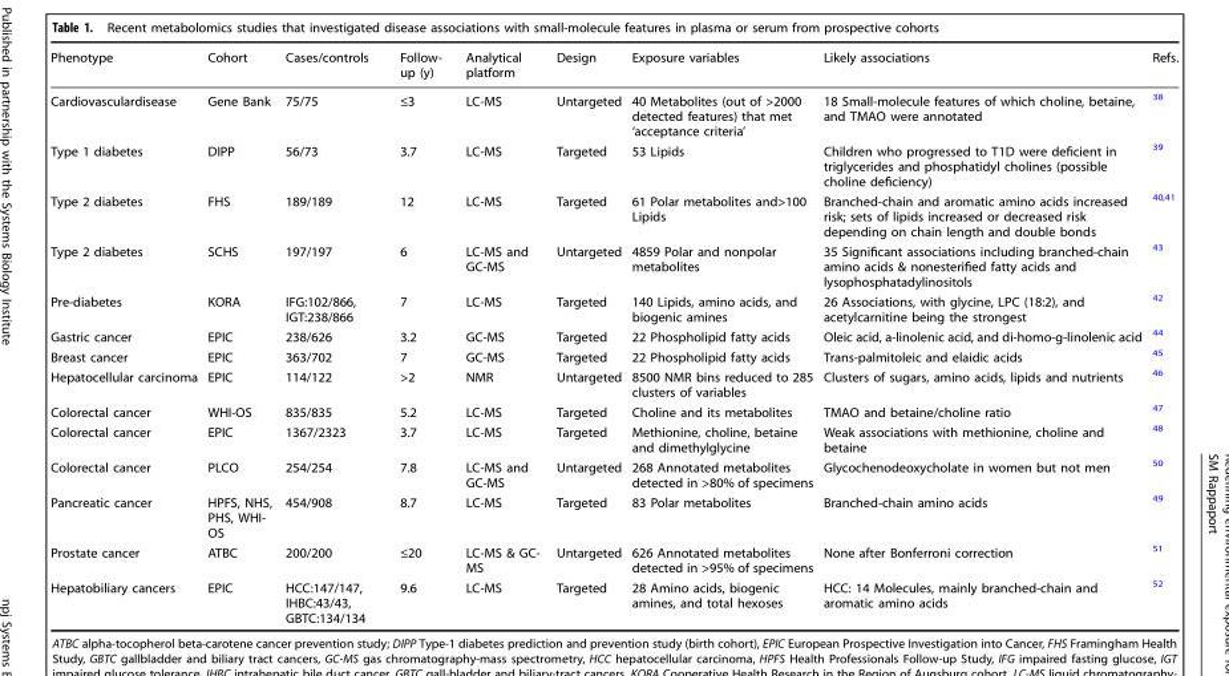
<table><thead><tr><td>Phenotype</td><td>Cohort</td><td>Cases/controls</td><td>Follow- up (y)</td><td>Analytical platform</td><td>Design</td><td>Exposure variables</td><td>Likely associations</td><td>Refs.</td></tr></thead><tbody><tr><td>Cardiovasculardisease</td><td>Gene Bank</td><td>75/75</td><td>≤3</td><td>LC-MS</td><td>Untargeted</td><td>40 Metabolites (out of &gt;2000 detected features) that met ‘acceptance criteria’</td><td>18 Small-molecule features of which choline, betaine, and TMAO were annotated</td><td><sup>38</sup></td></tr><tr><td>Type 1 diabetes</td><td>DIPP</td><td>56/73</td><td>3.7</td><td>LC-MS</td><td>Targeted</td><td>53 Lipids</td><td>Children who progressed to T1D were deficient in triglycerides and phosphatidyl cholines (possible choline deficiency)</td><td><sup>39</sup></td></tr><tr><td>Type 2 diabetes</td><td>FHS</td><td>189/189</td><td>12</td><td>LC-MS</td><td>Targeted</td><td>61 Polar metabolites and&gt;100 Lipids</td><td>Branched-chain and aromatic amino acids increased risk; sets of lipids increased or decreased risk depending on chain length and double bonds</td><td><sup>40,41</sup></td></tr><tr><td>Type 2 diabetes</td><td>SCHS</td><td>197/197</td><td>6</td><td>LC-MS and GC-MS</td><td>Untargeted</td><td>4859 Polar and nonpolar metabolites</td><td>35 Significant associations including branched-chain amino acids &amp; nonesterified fatty acids and lysophosphatadylinositols</td><td><sup>43</sup></td></tr><tr><td>Pre-diabetes</td><td>KORA</td><td>IFG:102/866, IGT:238/866</td><td>7</td><td>LC-MS</td><td>Targeted</td><td>140 Lipids, amino acids, and biogenic amines</td><td>26 Associations, with glycine, LPC (18:2), and acetylcarnitine being the strongest</td><td><sup>42</sup></td></tr><tr><td>Gastric cancer</td><td>EPIC</td><td>238/626</td><td>3.2</td><td>GC-MS</td><td>Targeted</td><td>22 Phospholipid fatty acids</td><td>Oleic acid, a-linolenic acid, and di-homo-g-linolenic acid</td><td><sup>44</sup></td></tr><tr><td>Breast cancer</td><td>EPIC</td><td>363/702</td><td>7</td><td>GC-MS</td><td>Targeted</td><td>22 Phospholipid fatty acids</td><td>Trans-palmitoleic and elaidic acids</td><td><sup>45</sup></td></tr><tr><td>Hepatocellular carcinoma</td><td>EPIC</td><td>114/122</td><td>&gt;2</td><td>NMR</td><td>Untargeted</td><td>8500 NMR bins reduced to 285 clusters of variables</td><td>Clusters of sugars, amino acids, lipids and nutrients</td><td><sup>46</sup></td></tr><tr><td>Colorectal cancer</td><td>WHI-OS</td><td>835/835</td><td>5.2</td><td>LC-MS</td><td>Targeted</td><td>Choline and its metabolites</td><td>TMAO and betaine/choline ratio</td><td><sup>47</sup></td></tr><tr><td>Colorectal cancer</td><td>EPIC</td><td>1367/2323</td><td>3.7</td><td>LC-MS</td><td>Targeted</td><td>Methionine, choline, betaine and dimethylglycine</td><td>Weak associations with methionine, choline and betaine</td><td><sup>48</sup></td></tr><tr><td>Colorectal cancer</td><td>PLCO</td><td>254/254</td><td>7.8</td><td>LC-MS and GC-MS</td><td>Untargeted</td><td>268 Annotated metabolites detected in &gt;80% of specimens</td><td>Glycochenodeoxycholate in women but not men</td><td><sup>50</sup></td></tr><tr><td>Pancreatic cancer</td><td>HPFS, NHS, PHS, WHI- OS</td><td>454/908</td><td>8.7</td><td>LC-MS</td><td>Targeted</td><td>83 Polar metabolites</td><td>Branched-chain amino acids</td><td><sup>49</sup></td></tr><tr><td>Prostate cancer</td><td>ATBC</td><td>200/200</td><td>≤20</td><td>LC-MS &amp; GC- MS</td><td>Untargeted</td><td>626 Annotated metabolites detected in &gt;95% of specimens</td><td>None after Bonferroni correction</td><td><sup>51</sup></td></tr><tr><td>Hepatobiliary cancers</td><td>EPIC</td><td>HCC:147/147, IHBC:43/43, GBTC:134/134</td><td>9.6</td><td>LC-MS</td><td>Targeted</td><td>28 Amino acids, biogenic amines, and total hexoses</td><td>HCC: 14 Molecules, mainly branched-chain and aromatic amino acids</td><td><sup>52</sup></td></tr></tbody></table>